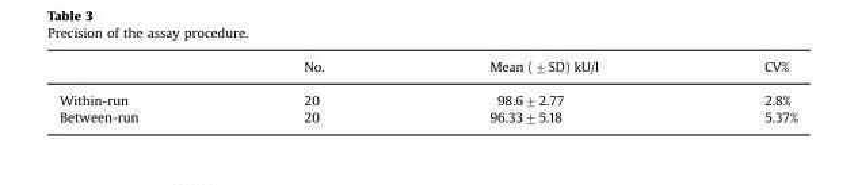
<table><thead><tr><td></td><td>No.</td><td>Mean (±SD) kU/l</td><td>CV%</td></tr></thead><tbody><tr><td>Within-run</td><td>20</td><td>98.6±2.77</td><td>2.8%</td></tr><tr><td>Between-run</td><td>20</td><td>96.33±5.18</td><td>5.37%</td></tr></tbody></table>